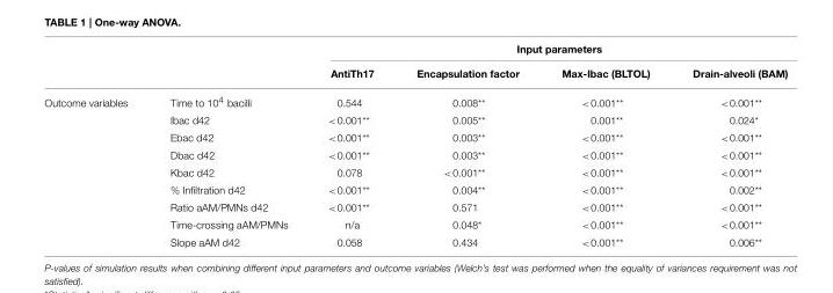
<table><thead><tr><td rowspan="2"></td><td rowspan="2"></td><td colspan="4">Input parameters</td></tr><tr><td>AntiTh17</td><td>Encapsulation factor</td><td>Max-Ibac (BLTOL)</td><td>Drain-alveoli (BAM)</td></tr></thead><tbody><tr><td rowspan="9">Outcome variables</td><td>Time to 10<sup>4</sup> bacilli</td><td>0.544</td><td>0.008**</td><td>&lt;0.001**</td><td>&lt;0.001**</td></tr><tr><td>Ibac d42</td><td>&lt;0.001**</td><td>0.005**</td><td>0.001**</td><td>0.024*</td></tr><tr><td>Ebac d42</td><td>&lt;0.001**</td><td>0.003**</td><td>&lt;0.001**</td><td>&lt;0.001**</td></tr><tr><td>Dbac d42</td><td>&lt;0.001**</td><td>0.003**</td><td>&lt;0.001**</td><td>&lt;0.001**</td></tr><tr><td>Kbac d42</td><td>0.078</td><td>&lt;0.001**</td><td>&lt;0.001**</td><td>&lt;0.001**</td></tr><tr><td>% Infiltration d42</td><td>&lt;0.001**</td><td>0.004**</td><td>&lt;0.001**</td><td>0.002**</td></tr><tr><td>Ratio aAM/PMNs d42</td><td>&lt;0.001**</td><td>0.571</td><td>&lt;0.001**</td><td>&lt;0.001**</td></tr><tr><td>Time-crossing aAM/PMNs</td><td>n/a</td><td>0.048*</td><td>&lt;0.001**</td><td>&lt;0.001**</td></tr><tr><td>Slope aAM d42</td><td>0.058</td><td>0.434</td><td>&lt;0.001**</td><td>0.006**</td></tr></tbody></table>